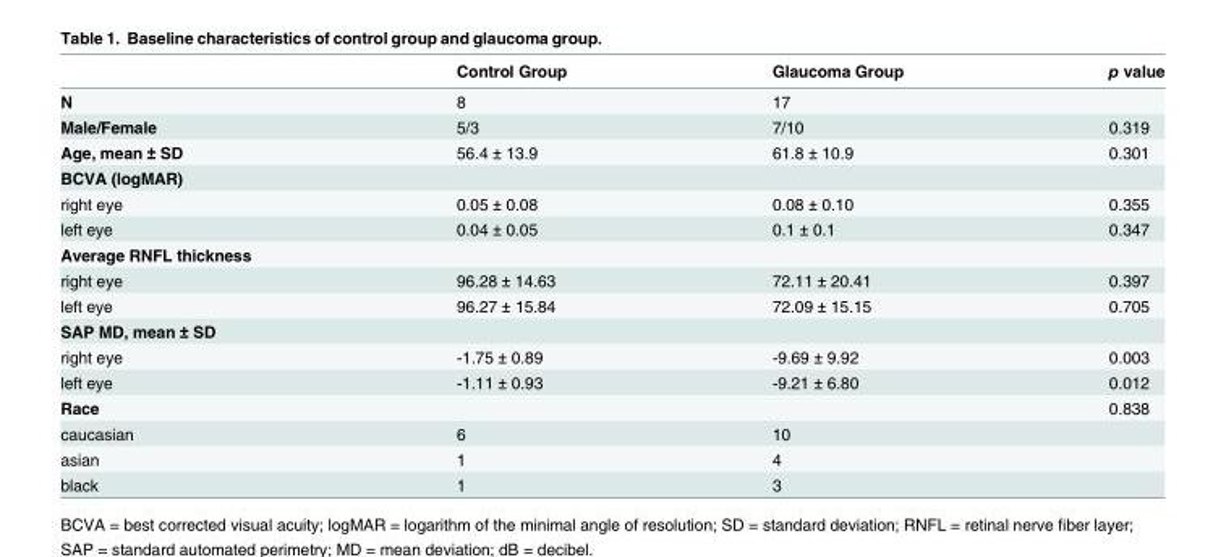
<table><thead><tr><td></td><td>Control Group</td><td>Glaucoma Group</td><td>p value</td></tr></thead><tbody><tr><td>N</td><td>8</td><td>17</td><td></td></tr><tr><td>Male/Female</td><td>5/3</td><td>7/10</td><td>0.319</td></tr><tr><td>Age, mean ± SD</td><td>56.4 ± 13.9</td><td>61.8 ± 10.9</td><td>0.301</td></tr><tr><td colspan="4">BCVA (logMAR)</td></tr><tr><td>right eye</td><td>0.05 ± 0.08</td><td>0.08 ± 0.10</td><td>0.355</td></tr><tr><td>left eye</td><td>0.04 ± 0.05</td><td>0.1 ± 0.1</td><td>0.347</td></tr><tr><td colspan="4">Average RNFL thickness</td></tr><tr><td>right eye</td><td>96.28 ± 14.63</td><td>72.11 ± 20.41</td><td>0.397</td></tr><tr><td>left eye</td><td>96.27 ± 15.84</td><td>72.09 ± 15.15</td><td>0.705</td></tr><tr><td colspan="4">SAP MD, mean ± SD</td></tr><tr><td>right eye</td><td>-1.75 ± 0.89</td><td>-9.69 ± 9.92</td><td>0.003</td></tr><tr><td>left eye</td><td>-1.11 ± 0.93</td><td>-9.21 ± 6.80</td><td>0.012</td></tr><tr><td>Race</td><td></td><td></td><td>0.838</td></tr><tr><td>caucasian</td><td>6</td><td>10</td><td></td></tr><tr><td>asian</td><td>1</td><td>4</td><td></td></tr><tr><td>black</td><td>1</td><td>3</td><td></td></tr></tbody></table>